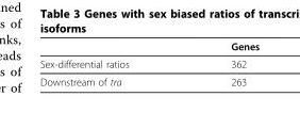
<table><thead><tr><td></td><td>Genes</td></tr></thead><tbody><tr><td>Sex-differential ratios</td><td>362</td></tr><tr><td>Downstream of tra</td><td>263</td></tr></tbody></table>